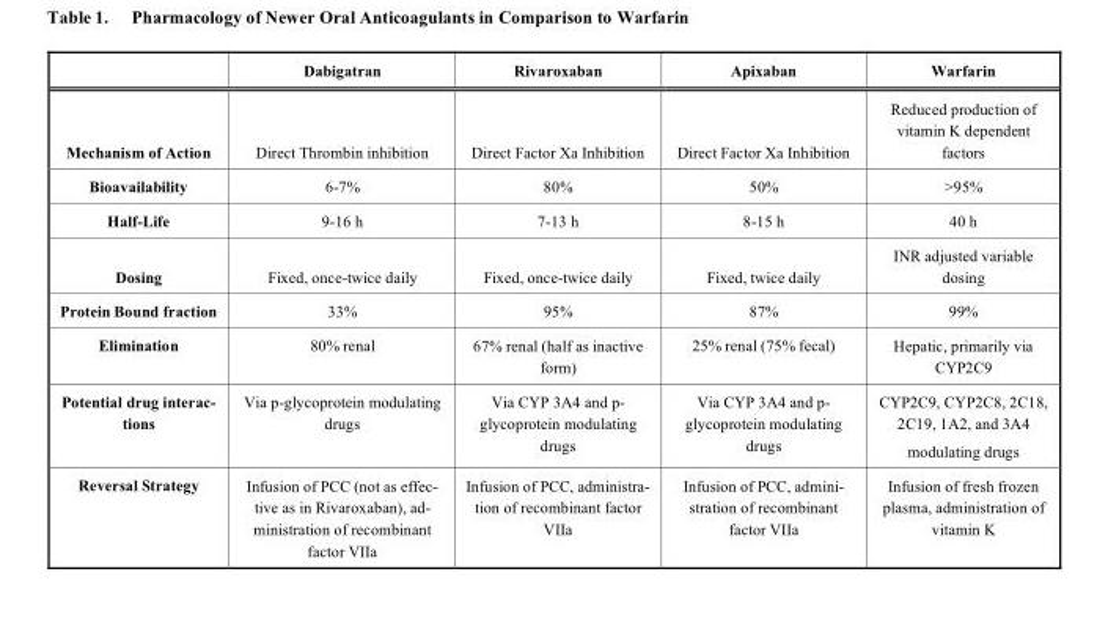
<table><thead><tr><td></td><td>Dabigatran</td><td>Rivaroxaban</td><td>Apixaban</td><td>Warfarin</td></tr></thead><tbody><tr><td>Mechanism of Action</td><td>Direct Thrombin inhibition</td><td>Direct Factor Xa Inhibition</td><td>Direct Factor Xa Inhibition</td><td>Reduced production of vitamin K dependent factors</td></tr><tr><td>Bioavailability</td><td>6-7%</td><td>80%</td><td>50%</td><td>&gt;95%</td></tr><tr><td>Half-Life</td><td>9-16 h</td><td>7-13 h</td><td>8-15 h</td><td>40 h</td></tr><tr><td>Dosing</td><td>Fixed, once-twice daily</td><td>Fixed, once-twice daily</td><td>Fixed, twice daily</td><td>INR adjusted variable dosing</td></tr><tr><td>Protein Bound fraction</td><td>33%</td><td>95%</td><td>87%</td><td>99%</td></tr><tr><td>Elimination</td><td>80% renal</td><td>67% renal (half as inactive form)</td><td>25% renal (75% fecal)</td><td>Hepatic, primarily via CYP2C9</td></tr><tr><td>Potential drug interac- tions</td><td>Via p-glycoprotein modulating drugs</td><td>Via CYP 3A4 and p- glycoprotein modulating drugs</td><td>Via CYP 3A4 and p- glycoprotein modulating drugs</td><td>CYP2C9, CYP2C8, 2C18, 2C19, 1A2, and 3A4 modulating drugs</td></tr><tr><td>Reversal Strategy</td><td>Infusion of PCC (not as effec- tive as in Rivaroxaban), ad- ministration of recombinant factor VIIa</td><td>Infusion of PCC, administra- tion of recombinant factor VIIa</td><td>Infusion of PCC, admini- stration of recombinant factor VIIa</td><td>Infusion of fresh frozen plasma, administration of vitamin K</td></tr></tbody></table>